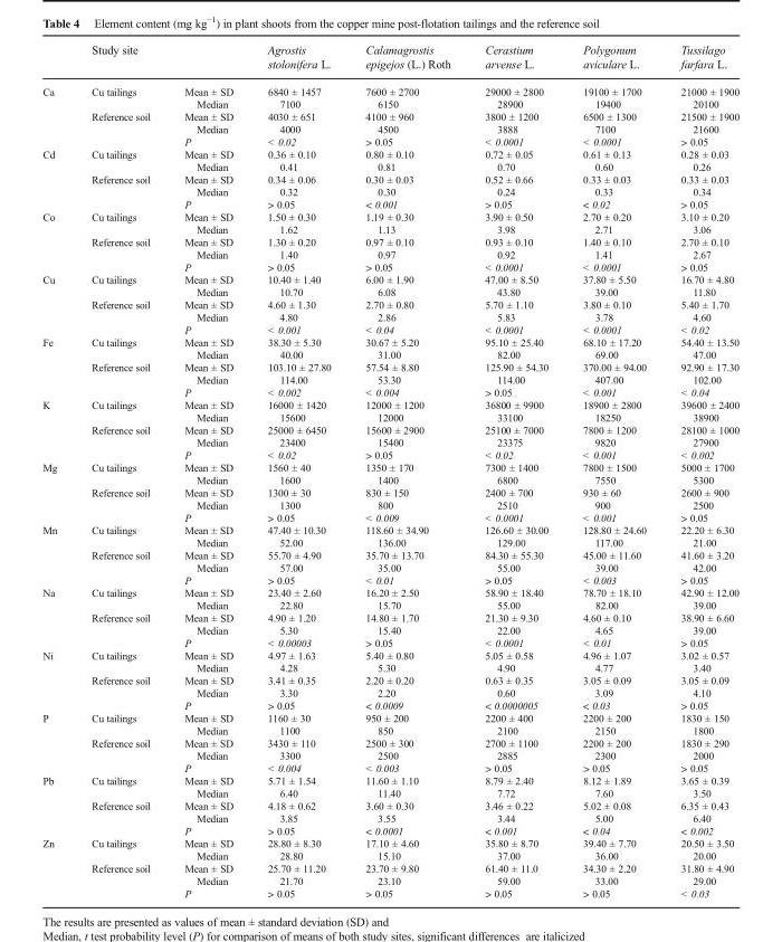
<table><thead><tr><td></td><td>Study site</td><td></td><td>Agrostis stolonifera L.</td><td>Calamagrostis epigejos (L.) Roth</td><td>Cerastium arvense L.</td><td>Polygonum aviculare L.</td><td>Tussilago farfara L.</td></tr></thead><tbody><tr><td rowspan="3">Ca</td><td>Cu tailings</td><td>Mean ± SD Median</td><td>6840 ± 1457 7100</td><td>7600 ± 2700 6150</td><td>29000 ± 2800 28900</td><td>19100 ± 1700 19400</td><td>21000 ± 1900 20100</td></tr><tr><td>Reference soil</td><td>Mean ± SD Median</td><td>4030 ± 651 4000</td><td>4100 ± 960 4500</td><td>3800 ± 1200 3888</td><td>6500 ± 1300 7100</td><td>21500 ± 1900 21600</td></tr><tr><td></td><td>P</td><td>&lt; 0.02</td><td>&gt; 0.05</td><td>&lt; 0.0001</td><td>&lt; 0.0001</td><td>&gt; 0.05</td></tr><tr><td rowspan="3">Cd</td><td>Cu tailings</td><td>Mean ± SD Median</td><td>0.36 ± 0.10 0.41</td><td>0.80 ± 0.10 0.81</td><td>0.72 ± 0.05 0.70</td><td>0.61 ± 0.13 0.60</td><td>0.28 ± 0.03 0.26</td></tr><tr><td>Reference soil</td><td>Mean ± SD Median</td><td>0.34 ± 0.06 0.32</td><td>0.30 ± 0.03 0.30</td><td>0.52 ± 0.66 0.24</td><td>0.33 ± 0.03 0.33</td><td>0.33 ± 0.03 0.34</td></tr><tr><td></td><td>P</td><td>&gt; 0.05</td><td>&lt; 0.001</td><td>&gt; 0.05</td><td>&lt; 0.02</td><td>&gt; 0.05</td></tr><tr><td rowspan="3">Co</td><td>Cu tailings</td><td>Mean ± SD Median</td><td>1.50 ± 0.30 1.62</td><td>1.19 ± 0.30 1.13</td><td>3.90 ± 0.50 3.98</td><td>2.70 ± 0.20 2.71</td><td>3.10 ± 0.20 3.06</td></tr><tr><td>Reference soil</td><td>Mean ± SD Median</td><td>1.30 ± 0.20 1.40</td><td>0.97 ± 0.10 0.97</td><td>0.93 ± 0.10 0.92</td><td>1.40 ± 0.10 1.41</td><td>2.70 ± 0.10 2.67</td></tr><tr><td></td><td>P</td><td>&gt; 0.05</td><td>&gt; 0.05</td><td>&lt; 0.0001</td><td>&lt; 0.0001</td><td>&gt; 0.05</td></tr><tr><td rowspan="3">Cu</td><td>Cu tailings</td><td>Mean ± SD Median</td><td>10.40 ± 1.40 10.70</td><td>6.00 ± 1.90 6.08</td><td>47.00 ± 8.50 43.80</td><td>37.80 ± 5.50 39.00</td><td>16.70 ± 4.80 11.80</td></tr><tr><td>Reference soil</td><td>Mean ± SD Median</td><td>4.60 ± 1.30 4.80</td><td>2.70 ± 0.80 2.86</td><td>5.70 ± 1.10 5.83</td><td>3.80 ± 0.10 3.78</td><td>5.40 ± 1.70 4.60</td></tr><tr><td></td><td>P</td><td>&lt; 0.001</td><td>&lt; 0.04</td><td>&lt; 0.0001</td><td>&lt; 0.0001</td><td>&lt; 0.02</td></tr><tr><td rowspan="3">Fe</td><td>Cu tailings</td><td>Mean ± SD Median</td><td>38.30 ± 5.30 40.00</td><td>30.67 ± 5.20 31.00</td><td>95.10 ± 25.40 82.00</td><td>68.10 ± 17.20 69.00</td><td>54.40 ± 13.50 47.00</td></tr><tr><td>Reference soil</td><td>Mean ± SD Median</td><td>103.10 ± 27.80 114.00</td><td>57.54 ± 8.80 53.30</td><td>125.90 ± 54.30 114.00</td><td>370.00 ± 94.00 407.00</td><td>92.90 ± 17.30 102.00</td></tr><tr><td></td><td>P</td><td>&lt; 0.002</td><td>&lt; 0.004</td><td>&gt; 0.05</td><td>&lt; 0.001</td><td>&lt; 0.04</td></tr><tr><td rowspan="3">K</td><td>Cu tailings</td><td>Mean ± SD Median</td><td>16000 ± 1420 15600</td><td>12000 ± 1200 12000</td><td>36800 ± 9900 33100</td><td>18900 ± 2800 18250</td><td>39600 ± 2400 38900</td></tr><tr><td>Reference soil</td><td>Mean ± SD Median</td><td>25000 ± 6450 23400</td><td>15600 ± 2900 15400</td><td>25100 ± 7000 23375</td><td>7800 ± 1200 9820</td><td>28100 ± 1000 27900</td></tr><tr><td></td><td>P</td><td>&lt; 0.02</td><td>&gt; 0.05</td><td>&lt; 0.02</td><td>&lt; 0.001</td><td>&lt; 0.002</td></tr><tr><td rowspan="3">Mg</td><td>Cu tailings</td><td>Mean ± SD Median</td><td>1560 ± 40 1600</td><td>1350 ± 170 1400</td><td>7300 ± 1400 6800</td><td>7800 ± 1500 7550</td><td>5000 ± 1700 5300</td></tr><tr><td>Reference soil</td><td>Mean ± SD Median</td><td>1300 ± 30 1300</td><td>830 ± 150 800</td><td>2400 ± 700 2510</td><td>930 ± 60 900</td><td>2600 ± 900 2500</td></tr><tr><td></td><td>P</td><td>&gt; 0.05</td><td>&lt; 0.009</td><td>&lt; 0.0001</td><td>&lt; 0.001</td><td>&gt; 0.05</td></tr><tr><td rowspan="3">Mn</td><td>Cu tailings</td><td>Mean ± SD Median</td><td>47.40 ± 10.30 52.00</td><td>118.60 ± 34.90 136.00</td><td>126.60 ± 30.00 129.00</td><td>128.80 ± 24.60 117.00</td><td>22.20 ± 6.30 21.00</td></tr><tr><td>Reference soil</td><td>Mean ± SD Median</td><td>55.70 ± 4.90 57.00</td><td>35.70 ± 13.70 35.00</td><td>84.30 ± 55.30 55.00</td><td>45.00 ± 11.60 39.00</td><td>41.60 ± 3.20 42.00</td></tr><tr><td></td><td>P</td><td>&gt; 0.05</td><td>&lt; 0.01</td><td>&gt; 0.05</td><td>&lt; 0.003</td><td>&gt; 0.05</td></tr><tr><td rowspan="3">Na</td><td>Cu tailings</td><td>Mean ± SD Median</td><td>23.40 ± 2.60 22.80</td><td>16.20 ± 2.50 15.70</td><td>58.90 ± 18.40 55.00</td><td>78.70 ± 18.10 82.00</td><td>42.90 ± 12.00 39.00</td></tr><tr><td>Reference soil</td><td>Mean ± SD Median</td><td>4.90 ± 1.20 5.30</td><td>14.80 ± 1.70 15.40</td><td>21.30 ± 9.30 22.00</td><td>4.60 ± 0.10 4.65</td><td>38.90 ± 6.60 39.00</td></tr><tr><td></td><td>P</td><td>&lt; 0.00003</td><td>&gt; 0.05</td><td>&lt; 0.0001</td><td>&lt; 0.01</td><td>&gt; 0.05</td></tr><tr><td rowspan="3">Ni</td><td>Cu tailings</td><td>Mean ± SD Median</td><td>4.97 ± 1.63 4.28</td><td>5.40 ± 0.80 5.30</td><td>5.05 ± 0.58 4.90</td><td>4.96 ± 1.07 4.77</td><td>3.02 ± 0.57 3.40</td></tr><tr><td>Reference soil</td><td>Mean ± SD Median</td><td>3.41 ± 0.35 3.30</td><td>2.20 ± 0.20 2.20</td><td>0.63 ± 0.35 0.60</td><td>3.05 ± 0.09 3.09</td><td>3.05 ± 0.09 4.10</td></tr><tr><td></td><td>P</td><td>&gt; 0.05</td><td>&lt; 0.0009</td><td>&lt; 0.0000005</td><td>&lt; 0.03</td><td>&gt; 0.05</td></tr><tr><td rowspan="3">P</td><td>Cu tailings</td><td>Mean ± SD Median</td><td>1160 ± 30 1100</td><td>950 ± 200 850</td><td>2200 ± 400 2100</td><td>2200 ± 200 2150</td><td>1830 ± 150 1800</td></tr><tr><td>Reference soil</td><td>Mean ± SD Median</td><td>3430 ± 110 3300</td><td>2500 ± 300 2500</td><td>2700 ± 1100 2885</td><td>2200 ± 200 2300</td><td>1830 ± 290 2000</td></tr><tr><td></td><td>P</td><td>&lt; 0.004</td><td>&lt; 0.003</td><td>&gt; 0.05</td><td>&gt; 0.05</td><td>&gt; 0.05</td></tr><tr><td rowspan="3">Pb</td><td>Cu tailings</td><td>Mean ± SD Median</td><td>5.71 ± 1.54 6.40</td><td>11.60 ± 1.10 11.40</td><td>8.79 ± 2.40 7.72</td><td>8.12 ± 1.89 7.60</td><td>3.65 ± 0.39 3.50</td></tr><tr><td>Reference soil</td><td>Mean ± SD Median</td><td>4.18 ± 0.62 3.85</td><td>3.60 ± 0.30 3.55</td><td>3.46 ± 0.22 3.44</td><td>5.02 ± 0.08 5.00</td><td>6.35 ± 0.43 6.40</td></tr><tr><td></td><td>P</td><td>&gt; 0.05</td><td>&lt; 0.0001</td><td>&lt; 0.001</td><td>&lt; 0.04</td><td>&lt; 0.002</td></tr><tr><td rowspan="3">Zn</td><td>Cu tailings</td><td>Mean ± SD Median</td><td>28.80 ± 8.30 28.80</td><td>17.10 ± 4.60 15.10</td><td>35.80 ± 8.70 37.00</td><td>39.40 ± 7.70 36.00</td><td>20.50 ± 3.50 20.00</td></tr><tr><td>Reference soil</td><td>Mean ± SD Median</td><td>25.70 ± 11.20 21.70</td><td>23.70 ± 9.80 23.10</td><td>61.40 ± 11.0 59.00</td><td>34.30 ± 2.20 33.00</td><td>31.80 ± 4.90 29.00</td></tr><tr><td></td><td>P</td><td>&gt; 0.05</td><td>&gt; 0.05</td><td>&gt; 0.05</td><td>&gt; 0.05</td><td>&lt; 0.03</td></tr></tbody></table>